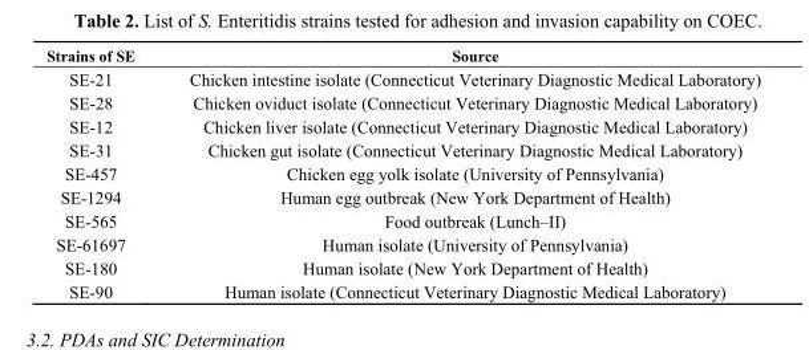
<table><thead><tr><td>Strains of SE</td><td>Source</td></tr></thead><tbody><tr><td>SE-21</td><td>Chicken intestine isolate (Connecticut Veterinary Diagnostic Medical Laboratory)</td></tr><tr><td>SE-28</td><td>Chicken oviduct isolate (Connecticut Veterinary Diagnostic Medical Laboratory)</td></tr><tr><td>SE-12</td><td>Chicken liver isolate (Connecticut Veterinary Diagnostic Medical Laboratory)</td></tr><tr><td>SE-31</td><td>Chicken gut isolate (Connecticut Veterinary Diagnostic Medical Laboratory)</td></tr><tr><td>SE-457</td><td>Chicken egg yolk isolate (University of Pennsylvania)</td></tr><tr><td>SE-1294</td><td>Human egg outbreak (New York Department of Health)</td></tr><tr><td>SE-565</td><td>Food outbreak (Lunch–II)</td></tr><tr><td>SE-61697</td><td>Human isolate (University of Pennsylvania)</td></tr><tr><td>SE-180</td><td>Human isolate (New York Department of Health)</td></tr><tr><td>SE-90</td><td>Human isolate (Connecticut Veterinary Diagnostic Medical Laboratory)</td></tr></tbody></table>